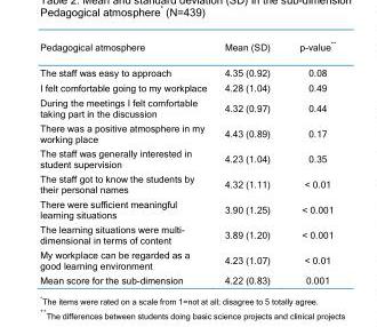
<table><thead><tr><td>Pedagogical atmosphere</td><td>Mean (SD)</td><td>p-value**</td></tr></thead><tbody><tr><td>The staff was easy to approach</td><td>4.35 (0.92)</td><td>0.08</td></tr><tr><td>I felt comfortable going to my workplace</td><td>4.28 (1.04)</td><td>0.49</td></tr><tr><td>During the meetings I felt comfortable taking part in the discussion</td><td>4.32 (0.97)</td><td>0.44</td></tr><tr><td>There was a positive atmosphere in my working place</td><td>4.43 (0.89)</td><td>0.17</td></tr><tr><td>The staff was generally interested in student supervision</td><td>4.23 (1.04)</td><td>0.35</td></tr><tr><td>The staff got to know the students by their personal names</td><td>4.32 (1.11)</td><td>&lt; 0.01</td></tr><tr><td>There were sufficient meaningful learning situations</td><td>3.90 (1.25)</td><td>&lt; 0.001</td></tr><tr><td>The learning situations were multi- dimensional in terms of content</td><td>3.89 (1.20)</td><td>&lt; 0.001</td></tr><tr><td>My workplace can be regarded as a good learning environment</td><td>4.23 (1.07)</td><td>&lt; 0.01</td></tr><tr><td>Mean score for the sub-dimension</td><td>4.22 (0.83)</td><td>0.001</td></tr></tbody></table>